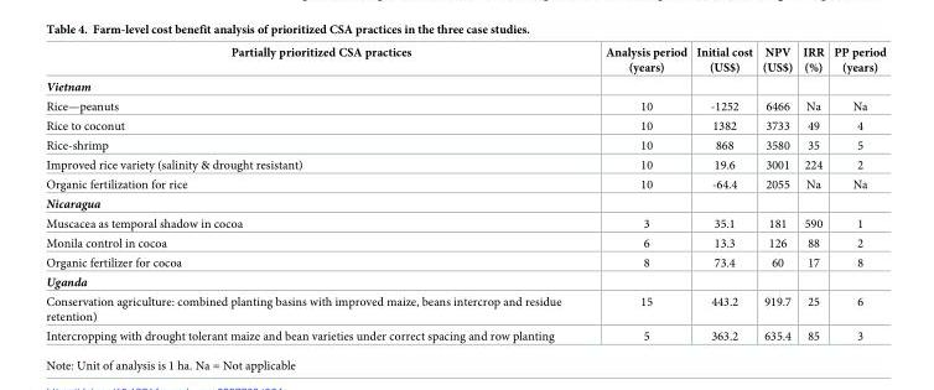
<table><thead><tr><td>Partially prioritized CSA practices</td><td>Analysis period (years)</td><td>Initial cost (US$)</td><td>NPV (US$)</td><td>IRR (%)</td><td>PP period (years)</td></tr></thead><tbody><tr><td colspan="6">Vietnam</td></tr><tr><td>Rice—peanuts</td><td>10</td><td>-1252</td><td>6466</td><td>Na</td><td>Na</td></tr><tr><td>Rice to coconut</td><td>10</td><td>1382</td><td>3733</td><td>49</td><td>4</td></tr><tr><td>Rice-shrimp</td><td>10</td><td>868</td><td>3580</td><td>35</td><td>5</td></tr><tr><td>Improved rice variety (salinity &amp; drought resistant)</td><td>10</td><td>19.6</td><td>3001</td><td>224</td><td>2</td></tr><tr><td>Organic fertilization for rice</td><td>10</td><td>-64.4</td><td>2055</td><td>Na</td><td>Na</td></tr><tr><td colspan="6">Nicaragua</td></tr><tr><td>Muscacea as temporal shadow in cocoa</td><td>3</td><td>35.1</td><td>181</td><td>590</td><td>1</td></tr><tr><td>Monila control in cocoa</td><td>6</td><td>13.3</td><td>126</td><td>88</td><td>2</td></tr><tr><td>Organic fertilizer for cocoa</td><td>8</td><td>73.4</td><td>60</td><td>17</td><td>8</td></tr><tr><td colspan="6">Uganda</td></tr><tr><td>Conservation agriculture: combined planting basins with improved maize, beans intercrop and residue retention)</td><td>15</td><td>443.2</td><td>919.7</td><td>25</td><td>6</td></tr><tr><td>Intercropping with drought tolerant maize and bean varieties under correct spacing and row planting</td><td>5</td><td>363.2</td><td>635.4</td><td>85</td><td>3</td></tr></tbody></table>